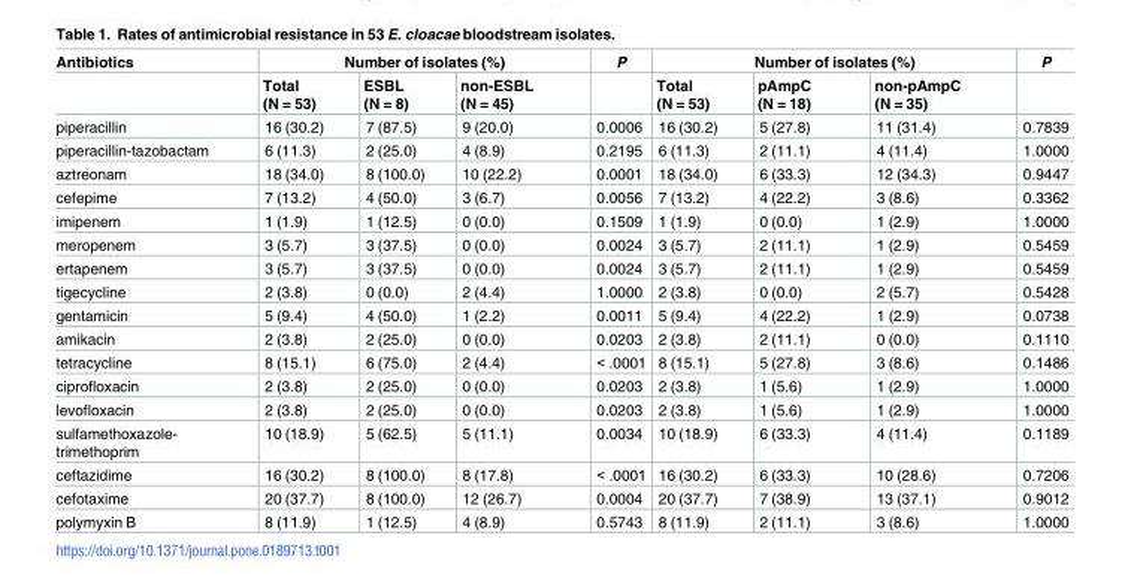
<table><thead><tr><td rowspan="2">Antibiotics</td><td colspan="3">Number of isolates (%)</td><td rowspan="2">P</td><td colspan="3">Number of isolates (%)</td><td rowspan="2">P</td></tr><tr><td>Total (N = 53)</td><td>ESBL (N = 8)</td><td>non-ESBL (N = 45)</td><td>Total (N = 53)</td><td>pAmpC (N = 18)</td><td>non-pAmpC (N = 35)</td></tr></thead><tbody><tr><td>piperacillin</td><td>16 (30.2)</td><td>7 (87.5)</td><td>9 (20.0)</td><td>0.0006</td><td>16 (30.2)</td><td>5 (27.8)</td><td>11 (31.4)</td><td>0.7839</td></tr><tr><td>piperacillin-tazobactam</td><td>6 (11.3)</td><td>2 (25.0)</td><td>4 (8.9)</td><td>0.2195</td><td>6 (11.3)</td><td>2 (11.1)</td><td>4 (11.4)</td><td>1.0000</td></tr><tr><td>aztreonam</td><td>18 (34.0)</td><td>8 (100.0)</td><td>10 (22.2)</td><td>0.0001</td><td>18 (34.0)</td><td>6 (33.3)</td><td>12 (34.3)</td><td>0.9447</td></tr><tr><td>cefepime</td><td>7 (13.2)</td><td>4 (50.0)</td><td>3 (6.7)</td><td>0.0056</td><td>7 (13.2)</td><td>4 (22.2)</td><td>3 (8.6)</td><td>0.3362</td></tr><tr><td>imipenem</td><td>1 (1.9)</td><td>1 (12.5)</td><td>0 (0.0)</td><td>0.1509</td><td>1 (1.9)</td><td>0 (0.0)</td><td>1 (2.9)</td><td>1.0000</td></tr><tr><td>meropenem</td><td>3 (5.7)</td><td>3 (37.5)</td><td>0 (0.0)</td><td>0.0024</td><td>3 (5.7)</td><td>2 (11.1)</td><td>1 (2.9)</td><td>0.5459</td></tr><tr><td>ertapenem</td><td>3 (5.7)</td><td>3 (37.5)</td><td>0 (0.0)</td><td>0.0024</td><td>3 (5.7)</td><td>2 (11.1)</td><td>1 (2.9)</td><td>0.5459</td></tr><tr><td>tigecycline</td><td>2 (3.8)</td><td>0 (0.0)</td><td>2 (4.4)</td><td>1.0000</td><td>2 (3.8)</td><td>0 (0.0)</td><td>2 (5.7)</td><td>0.5428</td></tr><tr><td>gentamicin</td><td>5 (9.4)</td><td>4 (50.0)</td><td>1 (2.2)</td><td>0.0011</td><td>5 (9.4)</td><td>4 (22.2)</td><td>1 (2.9)</td><td>0.0738</td></tr><tr><td>amikacin</td><td>2 (3.8)</td><td>2 (25.0)</td><td>0 (0.0)</td><td>0.0203</td><td>2 (3.8)</td><td>2 (11.1)</td><td>0 (0.0)</td><td>0.1110</td></tr><tr><td>tetracycline</td><td>8 (15.1)</td><td>6 (75.0)</td><td>2 (4.4)</td><td>&lt; .0001</td><td>8 (15.1)</td><td>5 (27.8)</td><td>3 (8.6)</td><td>0.1486</td></tr><tr><td>ciprofloxacin</td><td>2 (3.8)</td><td>2 (25.0)</td><td>0 (0.0)</td><td>0.0203</td><td>2 (3.8)</td><td>1 (5.6)</td><td>1 (2.9)</td><td>1.0000</td></tr><tr><td>levofloxacin</td><td>2 (3.8)</td><td>2 (25.0)</td><td>0 (0.0)</td><td>0.0203</td><td>2 (3.8)</td><td>1 (5.6)</td><td>1 (2.9)</td><td>1.0000</td></tr><tr><td>sulfamethoxazole- trimethoprim</td><td>10 (18.9)</td><td>5 (62.5)</td><td>5 (11.1)</td><td>0.0034</td><td>10 (18.9)</td><td>6 (33.3)</td><td>4 (11.4)</td><td>0.1189</td></tr><tr><td>ceftazidime</td><td>16 (30.2)</td><td>8 (100.0)</td><td>8 (17.8)</td><td>&lt; .0001</td><td>16 (30.2)</td><td>6 (33.3)</td><td>10 (28.6)</td><td>0.7206</td></tr><tr><td>cefotaxime</td><td>20 (37.7)</td><td>8 (100.0)</td><td>12 (26.7)</td><td>0.0004</td><td>20 (37.7)</td><td>7 (38.9)</td><td>13 (37.1)</td><td>0.9012</td></tr><tr><td>polymyxin B</td><td>8 (11.9)</td><td>1 (12.5)</td><td>4 (8.9)</td><td>0.5743</td><td>8 (11.9)</td><td>2 (11.1)</td><td>3 (8.6)</td><td>1.0000</td></tr></tbody></table>